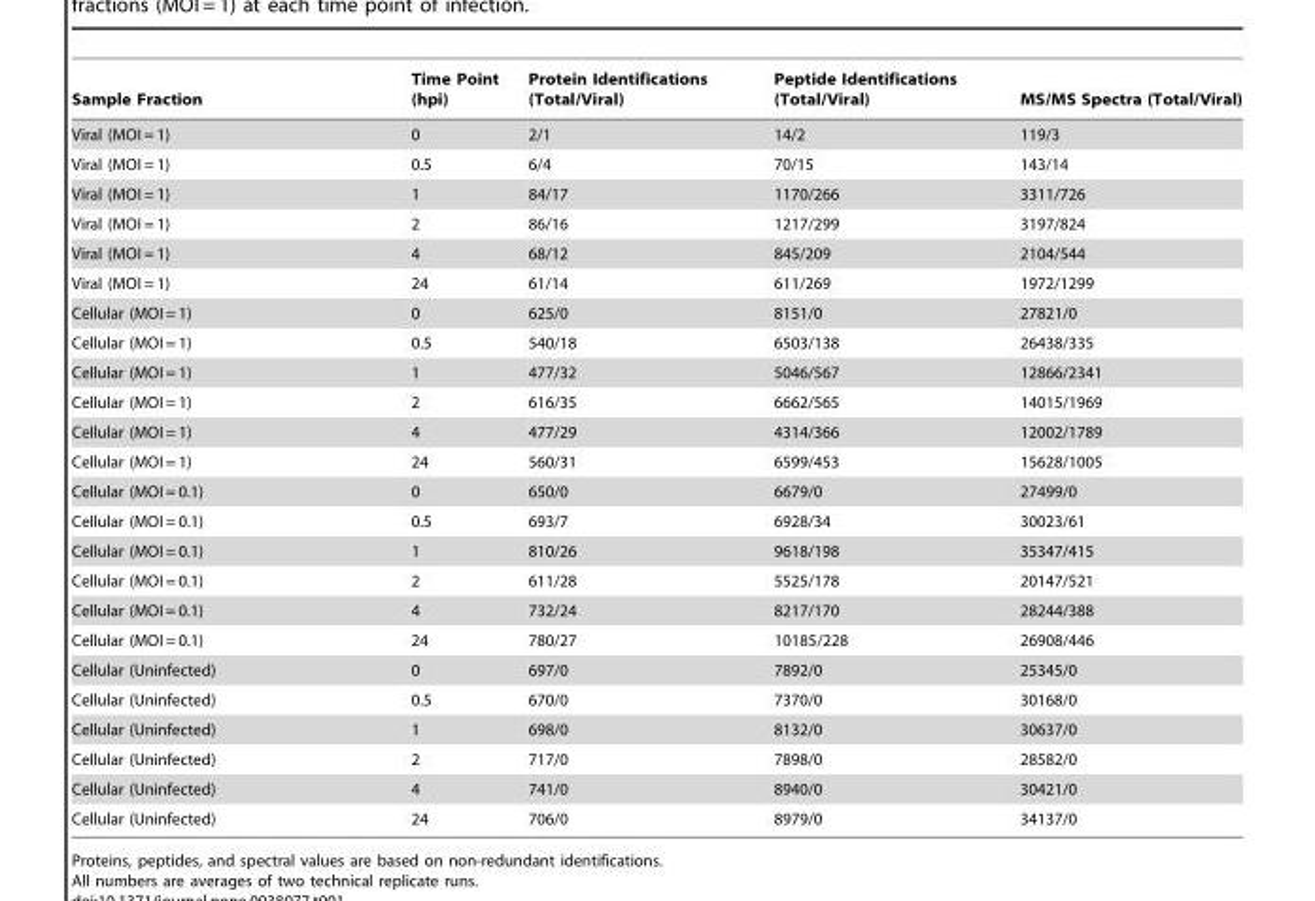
<table><thead><tr><td>Sample Fraction</td><td>Time Point (hpi)</td><td>Protein Identifications (Total/Viral)</td><td>Peptide Identifications (Total/Viral)</td><td>MS/MS Spectra (Total/Viral)</td></tr></thead><tbody><tr><td>Viral (MOI = 1)</td><td>0</td><td>2/1</td><td>14/2</td><td>119/3</td></tr><tr><td>Viral (MOI = 1)</td><td>0.5</td><td>6/4</td><td>70/15</td><td>143/14</td></tr><tr><td>Viral (MOI = 1)</td><td>1</td><td>84/17</td><td>1170/266</td><td>3311/726</td></tr><tr><td>Viral (MOI = 1)</td><td>2</td><td>86/16</td><td>1217/299</td><td>3197/824</td></tr><tr><td>Viral (MOI = 1)</td><td>4</td><td>68/12</td><td>845/209</td><td>2104/544</td></tr><tr><td>Viral (MOI = 1)</td><td>24</td><td>61/14</td><td>611/269</td><td>1972/1299</td></tr><tr><td>Cellular (MOI = 1)</td><td>0</td><td>625/0</td><td>8151/0</td><td>27821/0</td></tr><tr><td>Cellular (MOI = 1)</td><td>0.5</td><td>540/18</td><td>6503/138</td><td>26438/335</td></tr><tr><td>Cellular (MOI = 1)</td><td>1</td><td>477/32</td><td>5046/567</td><td>12866/2341</td></tr><tr><td>Cellular (MOI = 1)</td><td>2</td><td>616/35</td><td>6662/565</td><td>14015/1969</td></tr><tr><td>Cellular (MOI = 1)</td><td>4</td><td>477/29</td><td>4314/366</td><td>12002/1789</td></tr><tr><td>Cellular (MOI = 1)</td><td>24</td><td>560/31</td><td>6599/453</td><td>15628/1005</td></tr><tr><td>Cellular (MOI = 0.1)</td><td>0</td><td>650/0</td><td>6679/0</td><td>27499/0</td></tr><tr><td>Cellular (MOI = 0.1)</td><td>0.5</td><td>693/7</td><td>6928/34</td><td>30023/61</td></tr><tr><td>Cellular (MOI = 0.1)</td><td>1</td><td>810/26</td><td>9618/198</td><td>35347/415</td></tr><tr><td>Cellular (MOI = 0.1)</td><td>2</td><td>611/28</td><td>5525/178</td><td>20147/521</td></tr><tr><td>Cellular (MOI = 0.1)</td><td>4</td><td>732/24</td><td>8217/170</td><td>28244/388</td></tr><tr><td>Cellular (MOI = 0.1)</td><td>24</td><td>780/27</td><td>10185/228</td><td>26908/446</td></tr><tr><td>Cellular (Uninfected)</td><td>0</td><td>697/0</td><td>7892/0</td><td>25345/0</td></tr><tr><td>Cellular (Uninfected)</td><td>0.5</td><td>670/0</td><td>7370/0</td><td>30168/0</td></tr><tr><td>Cellular (Uninfected)</td><td>1</td><td>698/0</td><td>8132/0</td><td>30637/0</td></tr><tr><td>Cellular (Uninfected)</td><td>2</td><td>717/0</td><td>7898/0</td><td>28582/0</td></tr><tr><td>Cellular (Uninfected)</td><td>4</td><td>741/0</td><td>8940/0</td><td>30421/0</td></tr><tr><td>Cellular (Uninfected)</td><td>24</td><td>706/0</td><td>8979/0</td><td>34137/0</td></tr></tbody></table>